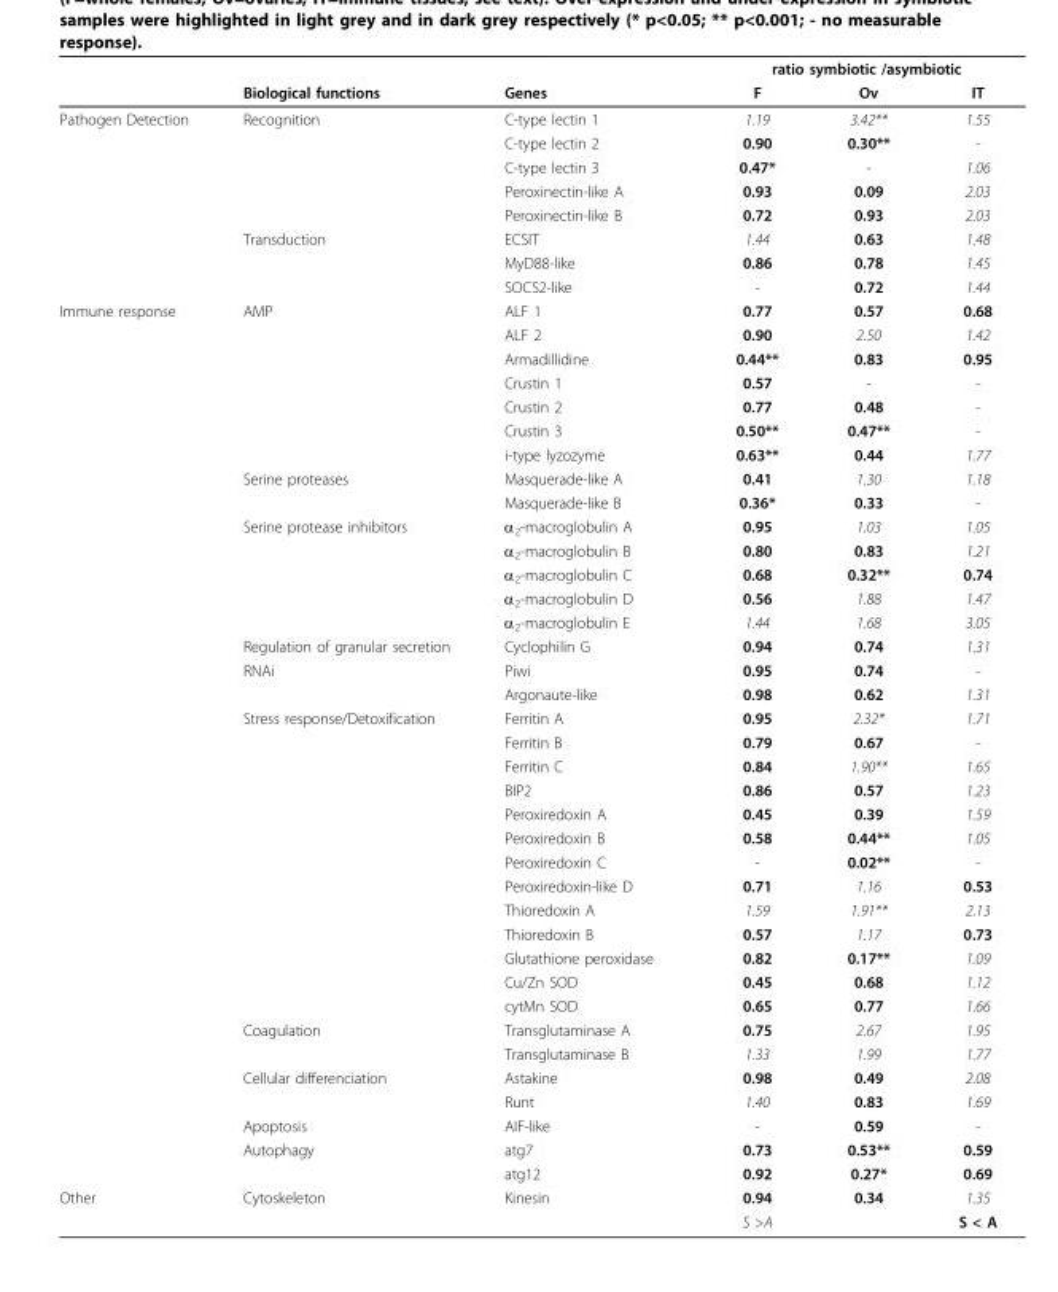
<table><thead><tr><td rowspan="2"></td><td rowspan="2">Biological functions</td><td rowspan="2">Genes</td><td colspan="3">ratio symbiotic /asymbiotic</td></tr><tr><td>F</td><td>Ov</td><td>IT</td></tr></thead><tbody><tr><td rowspan="8">Pathogen Detection</td><td>Recognition</td><td>C-type lectin 1</td><td>1.19</td><td>3.42**</td><td>1.55</td></tr><tr><td></td><td>C-type lectin 2</td><td>0.90</td><td>0.30**</td><td>-</td></tr><tr><td></td><td>C-type lectin 3</td><td>0.47*</td><td>-</td><td>1.06</td></tr><tr><td></td><td>Peroxinectin-like A</td><td>0.93</td><td>0.09</td><td>2.03</td></tr><tr><td></td><td>Peroxinectin-like B</td><td>0.72</td><td>0.93</td><td>2.03</td></tr><tr><td>Transduction</td><td>ECSIT</td><td>1.44</td><td>0.63</td><td>1.48</td></tr><tr><td></td><td>MyD88-like</td><td>0.86</td><td>0.78</td><td>1.45</td></tr><tr><td></td><td>SOCS2-like</td><td>-</td><td>0.72</td><td>1.44</td></tr><tr><td rowspan="37">Immune response</td><td>AMP</td><td>ALF 1</td><td>0.77</td><td>0.57</td><td>0.68</td></tr><tr><td></td><td>ALF 2</td><td>0.90</td><td>2.50</td><td>1.42</td></tr><tr><td></td><td>Armadillidine</td><td>0.44**</td><td>0.83</td><td>0.95</td></tr><tr><td></td><td>Crustin 1</td><td>0.57</td><td>-</td><td>-</td></tr><tr><td></td><td>Crustin 2</td><td>0.77</td><td>0.48</td><td>-</td></tr><tr><td></td><td>Crustin 3</td><td>0.50**</td><td>0.47**</td><td>-</td></tr><tr><td></td><td>i-type lyzozyme</td><td>0.63**</td><td>0.44</td><td>1.77</td></tr><tr><td>Serine proteases</td><td>Masquerade-like A</td><td>0.41</td><td>1.30</td><td>1.18</td></tr><tr><td></td><td>Masquerade-like B</td><td>0.36*</td><td>0.33</td><td>-</td></tr><tr><td>Serine protease inhibitors</td><td>α<sub>2</sub>-macroglobulin A</td><td>0.95</td><td>1.03</td><td>1.05</td></tr><tr><td></td><td>α<sub>2</sub>-macroglobulin B</td><td>0.80</td><td>0.83</td><td>1.21</td></tr><tr><td></td><td>α<sub>2</sub>-macroglobulin C</td><td>0.68</td><td>0.32**</td><td>0.74</td></tr><tr><td></td><td>α<sub>2</sub>-macroglobulin D</td><td>0.56</td><td>1.88</td><td>1.47</td></tr><tr><td></td><td>α<sub>2</sub>-macroglobulin E</td><td>1.44</td><td>1.68</td><td>3.05</td></tr><tr><td>Regulation of granular secretion</td><td>Cyclophilin G</td><td>0.94</td><td>0.74</td><td>1.31</td></tr><tr><td>RNAi</td><td>Piwi</td><td>0.95</td><td>0.74</td><td>-</td></tr><tr><td></td><td>Argonaute-like</td><td>0.98</td><td>0.62</td><td>1.31</td></tr><tr><td>Stress response/Detoxification</td><td>Ferritin A</td><td>0.95</td><td>2.32*</td><td>1.71</td></tr><tr><td></td><td>Ferritin B</td><td>0.79</td><td>0.67</td><td>-</td></tr><tr><td></td><td>Ferritin C</td><td>0.84</td><td>1.90**</td><td>1.65</td></tr><tr><td></td><td>BIP2</td><td>0.86</td><td>0.57</td><td>1.23</td></tr><tr><td></td><td>Peroxiredoxin A</td><td>0.45</td><td>0.39</td><td>1.59</td></tr><tr><td></td><td>Peroxiredoxin B</td><td>0.58</td><td>0.44**</td><td>1.05</td></tr><tr><td></td><td>Peroxiredoxin C</td><td>-</td><td>0.02**</td><td>-</td></tr><tr><td></td><td>Peroxiredoxin-like D</td><td>0.71</td><td>1.16</td><td>0.53</td></tr><tr><td></td><td>Thioredoxin A</td><td>1.59</td><td>1.91**</td><td>2.13</td></tr><tr><td></td><td>Thioredoxin B</td><td>0.57</td><td>1.17</td><td>0.73</td></tr><tr><td></td><td>Glutathione peroxidase</td><td>0.82</td><td>0.17**</td><td>1.09</td></tr><tr><td></td><td>Cu/Zn SOD</td><td>0.45</td><td>0.68</td><td>1.12</td></tr><tr><td></td><td>cytMn SOD</td><td>0.65</td><td>0.77</td><td>1.66</td></tr><tr><td>Coagulation</td><td>Transglutaminase A</td><td>0.75</td><td>2.67</td><td>1.95</td></tr><tr><td></td><td>Transglutaminase B</td><td>1.33</td><td>1.99</td><td>1.77</td></tr><tr><td>Cellular differenciation</td><td>Astakine</td><td>0.98</td><td>0.49</td><td>2.08</td></tr><tr><td></td><td>Runt</td><td>1.40</td><td>0.83</td><td>1.69</td></tr><tr><td>Apoptosis</td><td>AIF-like</td><td>-</td><td>0.59</td><td>-</td></tr><tr><td>Autophagy</td><td>atg7</td><td>0.73</td><td>0.53**</td><td>0.59</td></tr><tr><td></td><td>atg12</td><td>0.92</td><td>0.27*</td><td>0.69</td></tr><tr><td rowspan="2">Other</td><td>Cytoskeleton</td><td>Kinesin</td><td>0.94</td><td>0.34</td><td>1.35</td></tr><tr><td></td><td></td><td>S &gt;A</td><td></td><td>S &lt; A</td></tr></tbody></table>